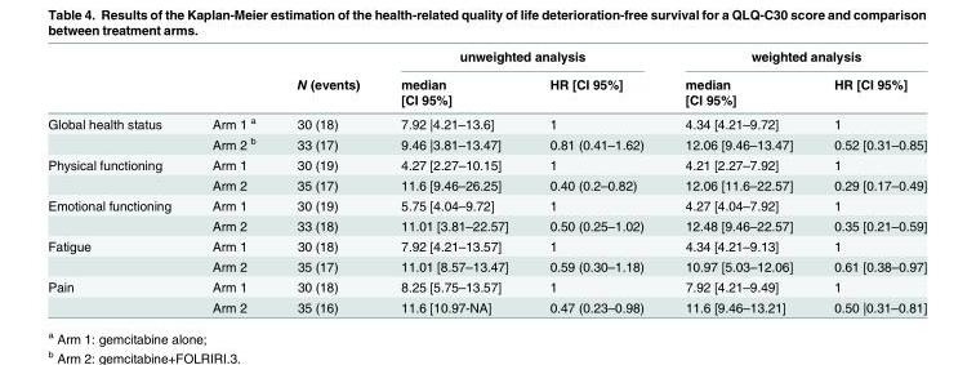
<table><thead><tr><td rowspan="3"></td><td rowspan="3"></td><td rowspan="3">N (events)</td><td colspan="2">unweighted analysis</td><td colspan="2">weighted analysis</td></tr><tr><td rowspan="2">median [CI 95%]</td><td rowspan="2">HR [CI 95%]</td><td rowspan="2">median [CI 95%]</td><td rowspan="2">HR [CI 95%]</td></tr><tr></tr></thead><tbody><tr><td rowspan="2">Global health status</td><td>Arm 1 <sup>a</sup></td><td>30 (18)</td><td>7.92 |4.21–13.6]</td><td>1</td><td>4.34 [4.21–9.72]</td><td>1</td></tr><tr><td>Arm 2 <sup>b</sup></td><td>33 (17)</td><td>9.46 |3.81–13.47]</td><td>0.81 (0.41–1.62)</td><td>12.06 [9.46–13.47]</td><td>0.52 [0.31–0.85]</td></tr><tr><td rowspan="2">Physical functioning</td><td>Arm 1</td><td>30 (19)</td><td>4.27 [2.27–10.15]</td><td>1</td><td>4.21 [2.27–7.92]</td><td>1</td></tr><tr><td>Arm 2</td><td>35 (17)</td><td>11.6 [9.46–26.25]</td><td>0.40 (0.2–0.82)</td><td>12.06 [11.6–22.57]</td><td>0.29 [0.17–0.49]</td></tr><tr><td rowspan="2">Emotional functioning</td><td>Arm 1</td><td>30 (19)</td><td>5.75 [4.04–9.72]</td><td>1</td><td>4.27 [4.04–7.92]</td><td>1</td></tr><tr><td>Arm 2</td><td>33 (18)</td><td>11.01 [3.81–22.57]</td><td>0.50 (0.25–1.02)</td><td>12.48 [9.46–22.57]</td><td>0.35 [0.21–0.59]</td></tr><tr><td rowspan="2">Fatigue</td><td>Arm 1</td><td>30 (18)</td><td>7.92 [4.21–13.57]</td><td>1</td><td>4.34 [4.21–9.13]</td><td>1</td></tr><tr><td>Arm 2</td><td>35 (17)</td><td>11.01 [8.57–13.47]</td><td>0.59 (0.30–1.18)</td><td>10.97 [5.03–12.06]</td><td>0.61 [0.38–0.97]</td></tr><tr><td rowspan="2">Pain</td><td>Arm 1</td><td>30 (18)</td><td>8.25 [5.75–13.57]</td><td>1</td><td>7.92 [4.21–9.49]</td><td>1</td></tr><tr><td>Arm 2</td><td>35 (16)</td><td>11.6 [10.97-NA]</td><td>0.47 (0.23–0.98)</td><td>11.6 [9.46–13.21]</td><td>0.50 |0.31–0.81]</td></tr></tbody></table>